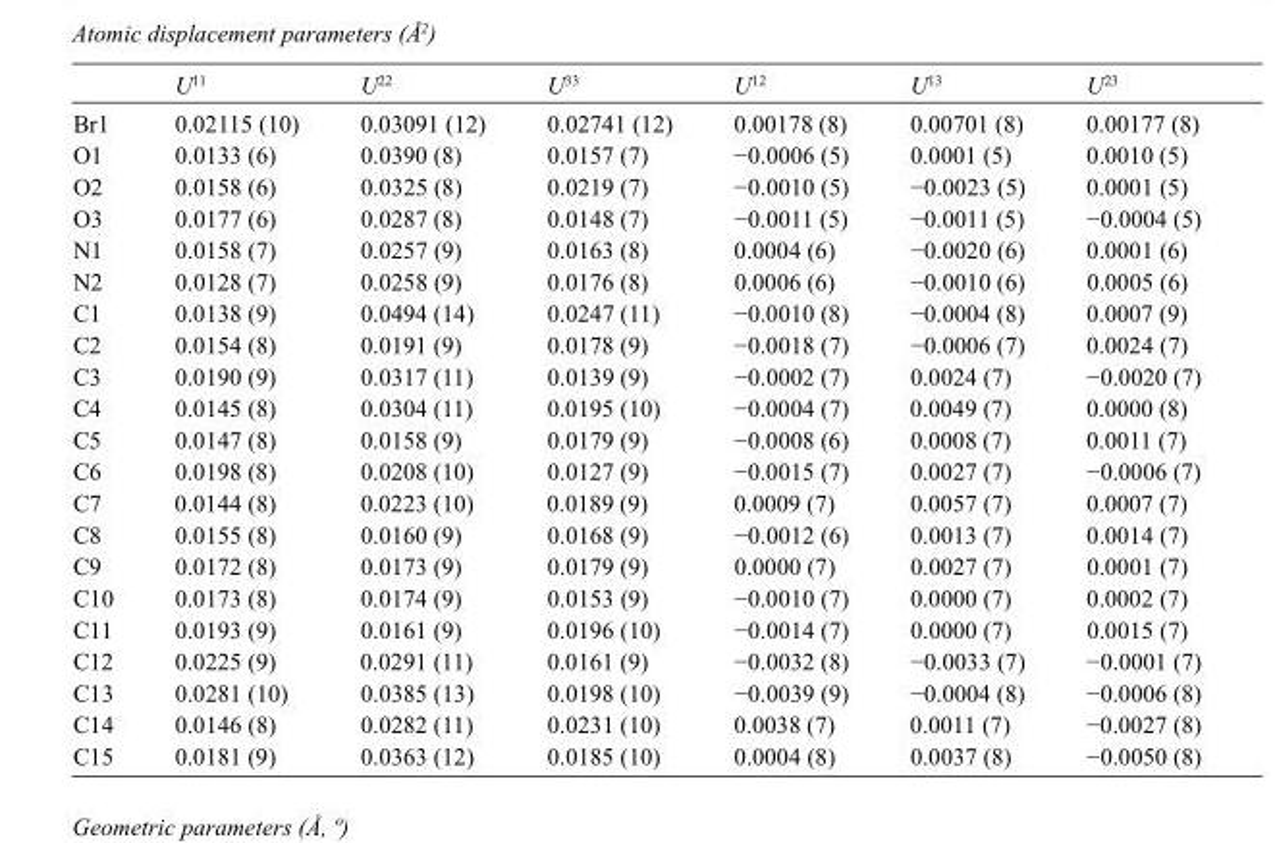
<table><thead><tr><td></td><td>U<sup>11</sup></td><td>U<sup>22</sup></td><td>U<sup>33</sup></td><td>U<sup>12</sup></td><td>U<sup>13</sup></td><td>U<sup>23</sup></td></tr></thead><tbody><tr><td>Br1</td><td>0.02115 (10)</td><td>0.03091 (12)</td><td>0.02741 (12)</td><td>0.00178 (8)</td><td>0.00701 (8)</td><td>0.00177 (8)</td></tr><tr><td>O1</td><td>0.0133 (6)</td><td>0.0390 (8)</td><td>0.0157 (7)</td><td>−0.0006 (5)</td><td>0.0001 (5)</td><td>0.0010 (5)</td></tr><tr><td>O2</td><td>0.0158 (6)</td><td>0.0325 (8)</td><td>0.0219 (7)</td><td>−0.0010 (5)</td><td>−0.0023 (5)</td><td>0.0001 (5)</td></tr><tr><td>O3</td><td>0.0177 (6)</td><td>0.0287 (8)</td><td>0.0148 (7)</td><td>−0.0011 (5)</td><td>−0.0011 (5)</td><td>−0.0004 (5)</td></tr><tr><td>N1</td><td>0.0158 (7)</td><td>0.0257 (9)</td><td>0.0163 (8)</td><td>0.0004 (6)</td><td>−0.0020 (6)</td><td>0.0001 (6)</td></tr><tr><td>N2</td><td>0.0128 (7)</td><td>0.0258 (9)</td><td>0.0176 (8)</td><td>0.0006 (6)</td><td>−0.0010 (6)</td><td>0.0005 (6)</td></tr><tr><td>C1</td><td>0.0138 (9)</td><td>0.0494 (14)</td><td>0.0247 (11)</td><td>−0.0010 (8)</td><td>−0.0004 (8)</td><td>0.0007 (9)</td></tr><tr><td>C2</td><td>0.0154 (8)</td><td>0.0191 (9)</td><td>0.0178 (9)</td><td>−0.0018 (7)</td><td>−0.0006 (7)</td><td>0.0024 (7)</td></tr><tr><td>C3</td><td>0.0190 (9)</td><td>0.0317 (11)</td><td>0.0139 (9)</td><td>−0.0002 (7)</td><td>0.0024 (7)</td><td>−0.0020 (7)</td></tr><tr><td>C4</td><td>0.0145 (8)</td><td>0.0304 (11)</td><td>0.0195 (10)</td><td>−0.0004 (7)</td><td>0.0049 (7)</td><td>0.0000 (8)</td></tr><tr><td>C5</td><td>0.0147 (8)</td><td>0.0158 (9)</td><td>0.0179 (9)</td><td>−0.0008 (6)</td><td>0.0008 (7)</td><td>0.0011 (7)</td></tr><tr><td>C6</td><td>0.0198 (8)</td><td>0.0208 (10)</td><td>0.0127 (9)</td><td>−0.0015 (7)</td><td>0.0027 (7)</td><td>−0.0006 (7)</td></tr><tr><td>C7</td><td>0.0144 (8)</td><td>0.0223 (10)</td><td>0.0189 (9)</td><td>0.0009 (7)</td><td>0.0057 (7)</td><td>0.0007 (7)</td></tr><tr><td>C8</td><td>0.0155 (8)</td><td>0.0160 (9)</td><td>0.0168 (9)</td><td>−0.0012 (6)</td><td>0.0013 (7)</td><td>0.0014 (7)</td></tr><tr><td>C9</td><td>0.0172 (8)</td><td>0.0173 (9)</td><td>0.0179 (9)</td><td>0.0000 (7)</td><td>0.0027 (7)</td><td>0.0001 (7)</td></tr><tr><td>C10</td><td>0.0173 (8)</td><td>0.0174 (9)</td><td>0.0153 (9)</td><td>−0.0010 (7)</td><td>0.0000 (7)</td><td>0.0002 (7)</td></tr><tr><td>C11</td><td>0.0193 (9)</td><td>0.0161 (9)</td><td>0.0196 (10)</td><td>−0.0014 (7)</td><td>0.0000 (7)</td><td>0.0015 (7)</td></tr><tr><td>C12</td><td>0.0225 (9)</td><td>0.0291 (11)</td><td>0.0161 (9)</td><td>−0.0032 (8)</td><td>−0.0033 (7)</td><td>−0.0001 (7)</td></tr><tr><td>C13</td><td>0.0281 (10)</td><td>0.0385 (13)</td><td>0.0198 (10)</td><td>−0.0039 (9)</td><td>−0.0004 (8)</td><td>−0.0006 (8)</td></tr><tr><td>C14</td><td>0.0146 (8)</td><td>0.0282 (11)</td><td>0.0231 (10)</td><td>0.0038 (7)</td><td>0.0011 (7)</td><td>−0.0027 (8)</td></tr><tr><td>C15</td><td>0.0181 (9)</td><td>0.0363 (12)</td><td>0.0185 (10)</td><td>0.0004 (8)</td><td>0.0037 (8)</td><td>−0.0050 (8)</td></tr></tbody></table>